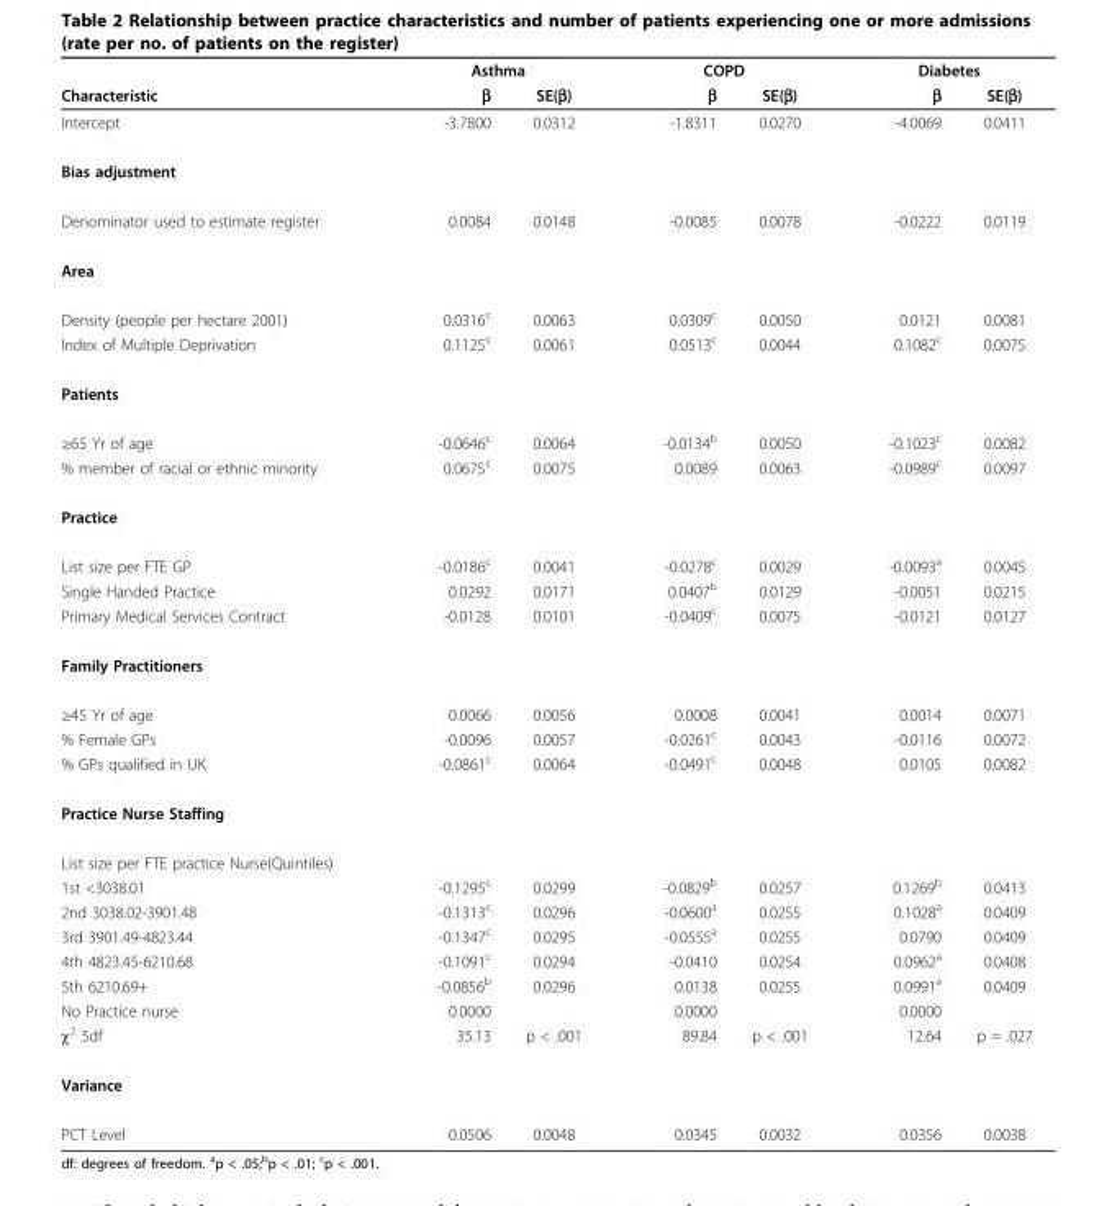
<table><thead><tr><td rowspan="2">Characteristic</td><td colspan="2">Asthma</td><td colspan="2">COPD</td><td colspan="2">Diabetes</td></tr><tr><td>β</td><td>SE(β)</td><td>β</td><td>SE(β)</td><td>β</td><td>SE(β)</td></tr></thead><tbody><tr><td>Intercept</td><td>-3.7800</td><td>0.0312</td><td>-1.8311</td><td>0.0270</td><td>-4.0069</td><td>0.0411</td></tr><tr><td colspan="7">Bias adjustment</td></tr><tr><td>Denominator used to estimate register</td><td>0.0084</td><td>0.0148</td><td>-0.0085</td><td>0.0078</td><td>-0.0222</td><td>0.0119</td></tr><tr><td colspan="7">Area</td></tr><tr><td>Density (people per hectare 2001)</td><td>0.0316<sup>c</sup></td><td>0.0063</td><td>0.0309<sup>c</sup></td><td>0.0050</td><td>0.0121</td><td>0.0081</td></tr><tr><td>Index of Multiple Deprivation</td><td>0.1125<sup>c</sup></td><td>0.0061</td><td>0.0513<sup>c</sup></td><td>0.0044</td><td>0.1082<sup>c</sup></td><td>0.0075</td></tr><tr><td colspan="7">Patients</td></tr><tr><td>≥65 Yr of age</td><td>-0.0646<sup>c</sup></td><td>0.0064</td><td>-0.0134<sup>b</sup></td><td>0.0050</td><td>-0.1023<sup>c</sup></td><td>0.0082</td></tr><tr><td>% member of racial or ethnic minority</td><td>0.0675<sup>c</sup></td><td>0.0075</td><td>0.0089</td><td>0.0063</td><td>-0.0989<sup>c</sup></td><td>0.0097</td></tr><tr><td colspan="7">Practice</td></tr><tr><td>List size per FTE GP</td><td>-0.0186<sup>c</sup></td><td>0.0041</td><td>-0.0278<sup>c</sup></td><td>0.0029</td><td>-0.0093<sup>a</sup></td><td>0.0045</td></tr><tr><td>Single Handed Practice</td><td>0.0292</td><td>0.0171</td><td>0.0407<sup>b</sup></td><td>0.0129</td><td>-0.0051</td><td>0.0215</td></tr><tr><td>Primary Medical Services Contract</td><td>-0.0128</td><td>0.0101</td><td>-0.0409<sup>c</sup></td><td>0.0075</td><td>-0.0121</td><td>0.0127</td></tr><tr><td colspan="7">Family Practitioners</td></tr><tr><td>≥45 Yr of age</td><td>0.0066</td><td>0.0056</td><td>0.0008</td><td>0.0041</td><td>0.0014</td><td>0.0071</td></tr><tr><td>% Female GPs</td><td>-0.0096</td><td>0.0057</td><td>-0.0261<sup>c</sup></td><td>0.0043</td><td>-0.0116</td><td>0.0072</td></tr><tr><td>% GPs qualified in UK</td><td>-0.0861<sup>c</sup></td><td>0.0064</td><td>-0.0491<sup>c</sup></td><td>0.0048</td><td>0.0105</td><td>0.0082</td></tr><tr><td colspan="7">Practice Nurse Staffing</td></tr><tr><td colspan="7">List size per FTE practice Nurse(Quintiles)</td></tr><tr><td>1st &lt;3038.01</td><td>-0.1295<sup>c</sup></td><td>0.0299</td><td>-0.0829<sup>b</sup></td><td>0.0257</td><td>0.1269<sup>b</sup></td><td>0.0413</td></tr><tr><td>2nd 3038.02-3901.48</td><td>-0.1313<sup>c</sup></td><td>0.0296</td><td>-0.0600<sup>a</sup></td><td>0.0255</td><td>0.1028<sup>a</sup></td><td>0.0409</td></tr><tr><td>3rd 3901.49-4823.44</td><td>-0.1347<sup>c</sup></td><td>0.0295</td><td>-0.0555<sup>a</sup></td><td>0.0255</td><td>0.0790</td><td>0.0409</td></tr><tr><td>4th 4823.45-6210.68</td><td>-0.1091<sup>c</sup></td><td>0.0294</td><td>-0.0410</td><td>0.0254</td><td>0.0962<sup>a</sup></td><td>0.0408</td></tr><tr><td>5th 6210.69+</td><td>-0.0856<sup>b</sup></td><td>0.0296</td><td>0.0138</td><td>0.0255</td><td>0.0991<sup>a</sup></td><td>0.0409</td></tr><tr><td>No Practice nurse</td><td>0.0000</td><td></td><td>0.0000</td><td></td><td>0.0000</td><td></td></tr><tr><td>χ<sup>2</sup> 5df</td><td>35.13</td><td>p &lt; .001</td><td>89.84</td><td>p &lt; .001</td><td>12.64</td><td>p = .027</td></tr><tr><td colspan="7">Variance</td></tr><tr><td>PCT Level</td><td>0.0506</td><td>0.0048</td><td>0.0345</td><td>0.0032</td><td>0.0356</td><td>0.0038</td></tr></tbody></table>